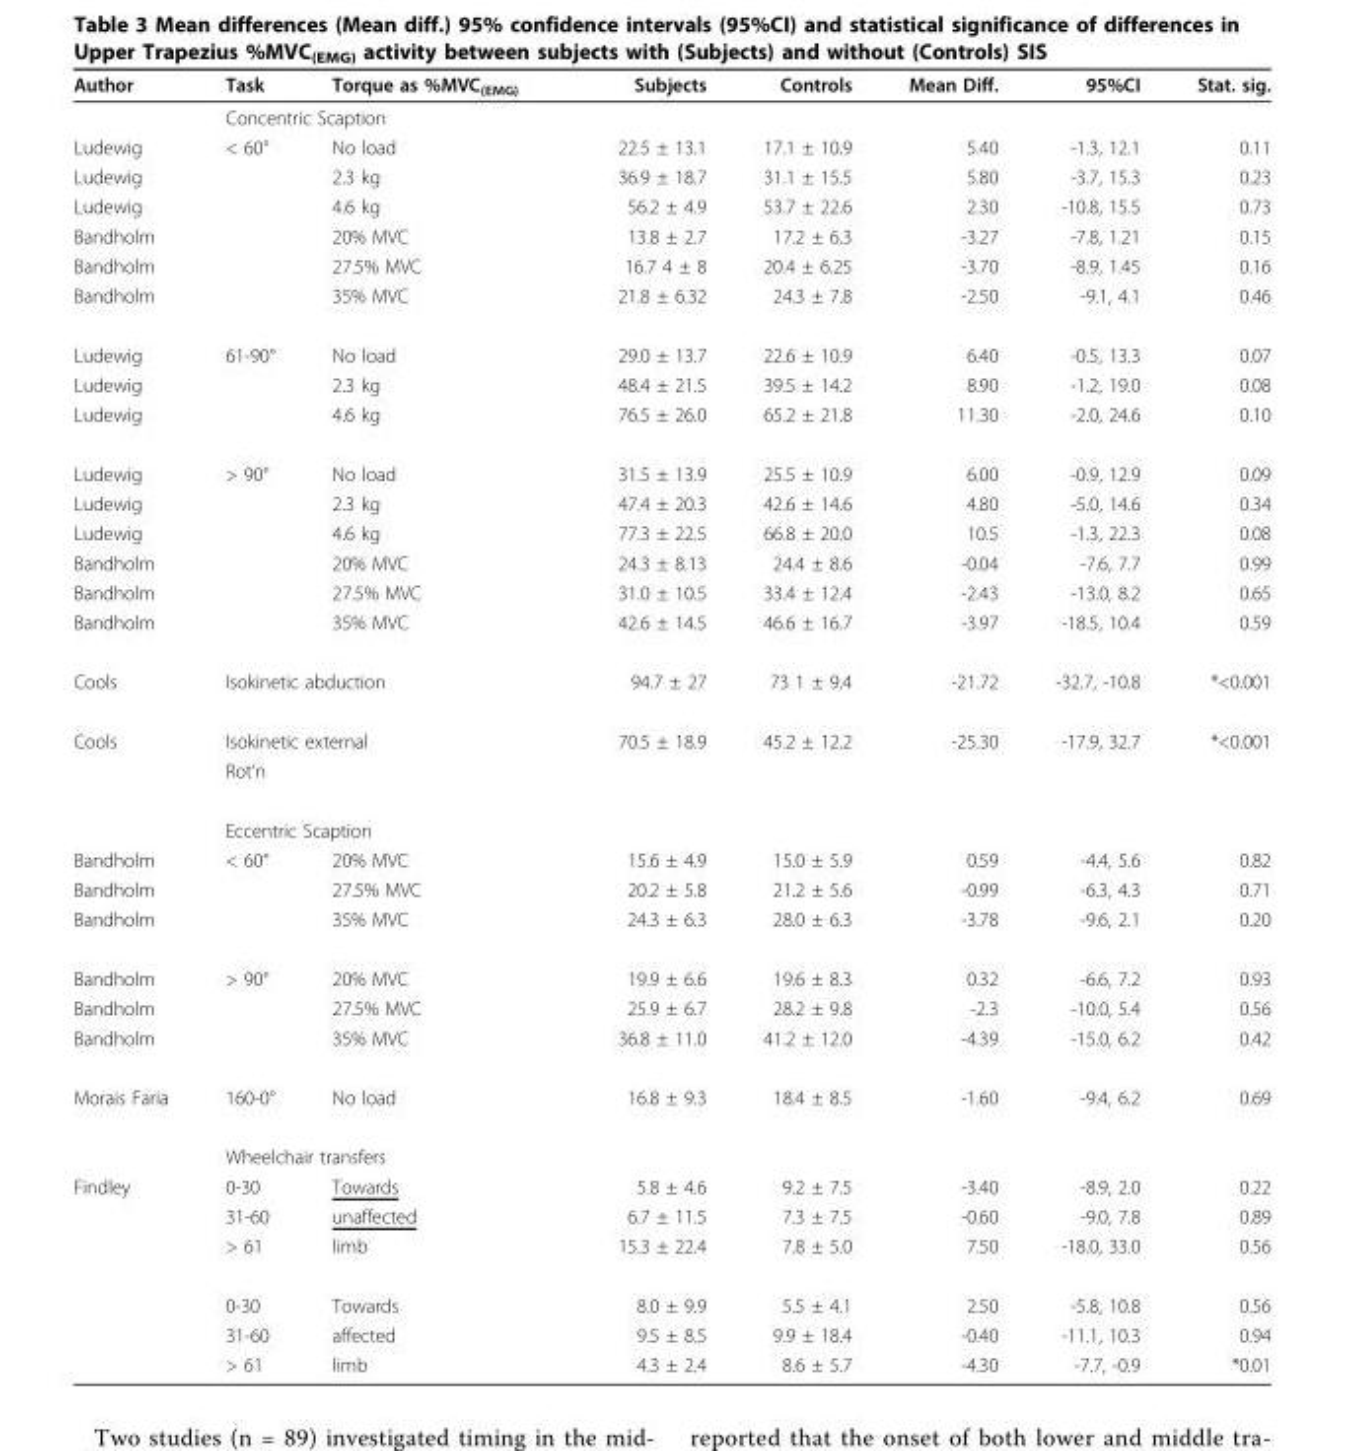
<table><thead><tr><td>Author</td><td>Task</td><td>Torque as %MVC<sub>(EMG)</sub></td><td>Subjects</td><td>Controls</td><td>Mean Diff.</td><td>95%CI</td><td>Stat. sig.</td></tr></thead><tbody><tr><td></td><td colspan="2">Concentric Scaption</td><td></td><td></td><td></td><td></td><td></td></tr><tr><td>Ludewig</td><td>&lt; 60°</td><td>No load</td><td>22.5 ± 13.1</td><td>17.1 ± 10.9</td><td>5.40</td><td>-1.3, 12.1</td><td>0.11</td></tr><tr><td>Ludewig</td><td></td><td>2.3 kg</td><td>36.9 ± 18.7</td><td>31.1 ± 15.5</td><td>5.80</td><td>-3.7, 15.3</td><td>0.23</td></tr><tr><td>Ludewig</td><td></td><td>4.6 kg</td><td>56.2 ± 4.9</td><td>53.7 ± 22.6</td><td>2.30</td><td>-10.8, 15.5</td><td>0.73</td></tr><tr><td>Bandholm</td><td></td><td>20% MVC</td><td>13.8 ± 2.7</td><td>17.2 ± 6.3</td><td>-3.27</td><td>-7.8, 1.21</td><td>0.15</td></tr><tr><td>Bandholm</td><td></td><td>27.5% MVC</td><td>16.7 4 ± 8</td><td>20.4 ± 6.25</td><td>-3.70</td><td>-8.9, 1.45</td><td>0.16</td></tr><tr><td>Bandholm</td><td></td><td>35% MVC</td><td>21.8 ± 6.32</td><td>24.3 ± 7.8</td><td>-2.50</td><td>-9.1, 4.1</td><td>0.46</td></tr><tr><td>Ludewig</td><td>61-90°</td><td>No load</td><td>29.0 ± 13.7</td><td>22.6 ± 10.9</td><td>6.40</td><td>-0.5, 13.3</td><td>0.07</td></tr><tr><td>Ludewig</td><td></td><td>2.3 kg</td><td>48.4 ± 21.5</td><td>39.5 ± 14.2</td><td>8.90</td><td>-1.2, 19.0</td><td>0.08</td></tr><tr><td>Ludewig</td><td></td><td>4.6 kg</td><td>76.5 ± 26.0</td><td>65.2 ± 21.8</td><td>11.30</td><td>-2.0, 24.6</td><td>0.10</td></tr><tr><td>Ludewig</td><td>&gt; 90°</td><td>No load</td><td>31.5 ± 13.9</td><td>25.5 ± 10.9</td><td>6.00</td><td>-0.9, 12.9</td><td>0.09</td></tr><tr><td>Ludewig</td><td></td><td>2.3 kg</td><td>47.4 ± 20.3</td><td>42.6 ± 14.6</td><td>4.80</td><td>-5.0, 14.6</td><td>0.34</td></tr><tr><td>Ludewig</td><td></td><td>4.6 kg</td><td>77.3 ± 22.5</td><td>66.8 ± 20.0</td><td>10.5</td><td>-1.3, 22.3</td><td>0.08</td></tr><tr><td>Bandholm</td><td></td><td>20% MVC</td><td>24.3 ± 8.13</td><td>24.4 ± 8.6</td><td>-0.04</td><td>-7.6, 7.7</td><td>0.99</td></tr><tr><td>Bandholm</td><td></td><td>27.5% MVC</td><td>31.0 ± 10.5</td><td>33.4 ± 12.4</td><td>-2.43</td><td>-13.0, 8.2</td><td>0.65</td></tr><tr><td>Bandholm</td><td></td><td>35% MVC</td><td>42.6 ± 14.5</td><td>46.6 ± 16.7</td><td>-3.97</td><td>-18.5, 10.4</td><td>0.59</td></tr><tr><td>Cools</td><td colspan="2">Isokinetic abduction</td><td>94.7 ± 27</td><td>73 1 ± 9.4</td><td>-21.72</td><td>-32.7, -10.8</td><td>*&lt;0.001</td></tr><tr><td rowspan="3">Cools</td><td colspan="2">Isokinetic external</td><td>70.5 ± 18.9</td><td>45.2 ± 12.2</td><td>-25.30</td><td>-17.9, 32.7</td><td>*&lt;0.001</td></tr><tr><td colspan="2">Rot’n</td><td></td><td></td><td></td><td></td><td></td></tr><tr><td colspan="2">Eccentric Scaption</td><td></td><td></td><td></td><td></td><td></td></tr><tr><td>Bandholm</td><td>&lt; 60°</td><td>20% MVC</td><td>15.6 ± 4.9</td><td>15.0 ± 5.9</td><td>0.59</td><td>-4.4, 5.6</td><td>0.82</td></tr><tr><td>Bandholm</td><td></td><td>27.5% MVC</td><td>20.2 ± 5.8</td><td>21.2 ± 5.6</td><td>-0.99</td><td>-6.3, 4.3</td><td>0.71</td></tr><tr><td>Bandholm</td><td></td><td>35% MVC</td><td>24.3 ± 6.3</td><td>28.0 ± 6.3</td><td>-3.78</td><td>-9.6, 2.1</td><td>0.20</td></tr><tr><td>Bandholm</td><td>&gt; 90°</td><td>20% MVC</td><td>19.9 ± 6.6</td><td>19.6 ± 8.3</td><td>0.32</td><td>-6.6, 7.2</td><td>0.93</td></tr><tr><td>Bandholm</td><td></td><td>27.5% MVC</td><td>25.9 ± 6.7</td><td>28.2 ± 9.8</td><td>-2.3</td><td>-10.0, 5.4</td><td>0.56</td></tr><tr><td>Bandholm</td><td></td><td>35% MVC</td><td>36.8 ± 11.0</td><td>41.2 ± 12.0</td><td>-4.39</td><td>-15.0, 6.2</td><td>0.42</td></tr><tr><td rowspan="2">Morais Faria</td><td>160-0°</td><td>No load</td><td>16.8 ± 9.3</td><td>18.4 ± 8.5</td><td>-1.60</td><td>-9.4, 6.2</td><td>0.69</td></tr><tr><td colspan="2">Wheelchair transfers</td><td></td><td></td><td></td><td></td><td></td></tr><tr><td rowspan="6">Findley</td><td>0-30</td><td>Towards</td><td>5.8 ± 4.6</td><td>9.2 ± 7.5</td><td>-3.40</td><td>-8.9, 2.0</td><td>0.22</td></tr><tr><td>31-60</td><td>unaffected</td><td>6.7 ± 11.5</td><td>7.3 ± 7.5</td><td>-0.60</td><td>-9.0, 7.8</td><td>0.89</td></tr><tr><td>&gt; 61</td><td>limb</td><td>15.3 ± 22.4</td><td>7.8 ± 5.0</td><td>7.50</td><td>-18.0, 33.0</td><td>0.56</td></tr><tr><td>0-30</td><td>Towards</td><td>8.0 ± 9.9</td><td>5.5 ± 4.1</td><td>2.50</td><td>-5.8, 10.8</td><td>0.56</td></tr><tr><td>31-60</td><td>affected</td><td>9.5 ± 8.5</td><td>9.9 ± 18.4</td><td>-0.40</td><td>-11.1, 10.3</td><td>0.94</td></tr><tr><td>&gt; 61</td><td>limb</td><td>4.3 ± 2.4</td><td>8.6 ± 5.7</td><td>-4.30</td><td>-7.7, -0.9</td><td>*0.01</td></tr></tbody></table>